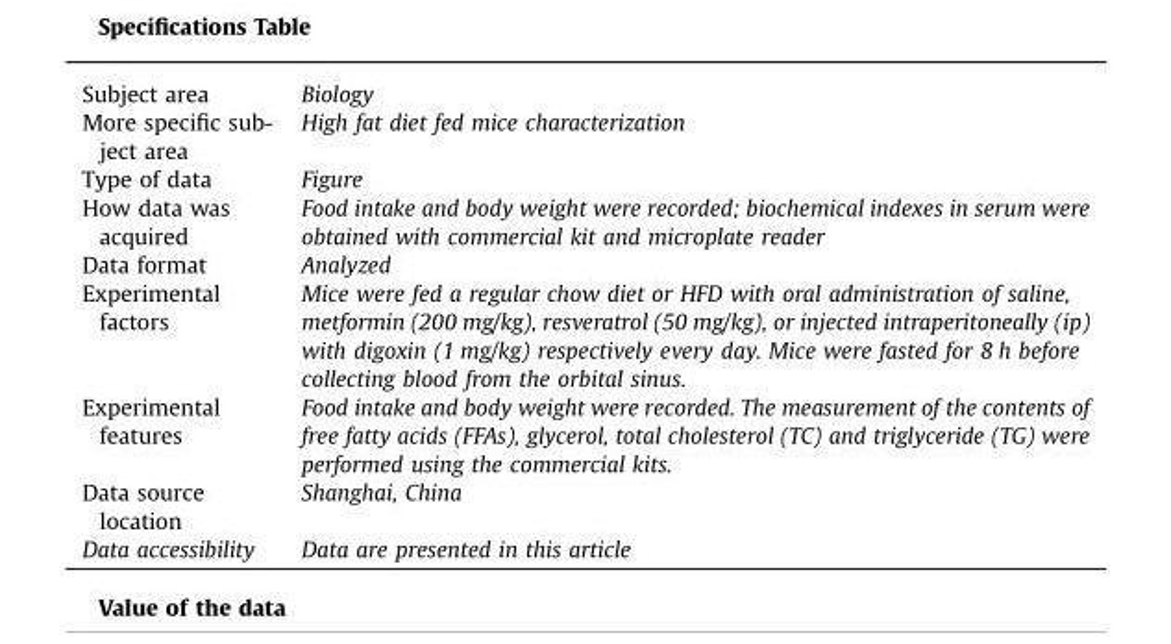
<table><tbody><tr><td>Subject area</td><td>Biology</td></tr><tr><td>More specific sub- ject area</td><td>High fat diet fed mice characterization</td></tr><tr><td>Type of data</td><td>Figure</td></tr><tr><td>How data was acquired</td><td>Food intake and body weight were recorded; biochemical indexes in serum were obtained with commercial kit and microplate reader</td></tr><tr><td>Data format</td><td>Analyzed</td></tr><tr><td>Experimental factors</td><td>Mice were fed a regular chow diet or HFD with oral administration of saline, metformin (200 mg/kg), resveratrol (50 mg/kg), or injected intraperitoneally (ip) with digoxin (1 mg/kg) respectively every day. Mice were fasted for 8 h before collecting blood from the orbital sinus.</td></tr><tr><td>Experimental features</td><td>Food intake and body weight were recorded. The measurement of the contents of free fatty acids (FFAs), glycerol, total cholesterol (TC) and triglyceride (TG) were performed using the commercial kits.</td></tr><tr><td>Data source location</td><td>Shanghai, China</td></tr><tr><td>Data accessibility</td><td>Data are presented in this article</td></tr></tbody></table>